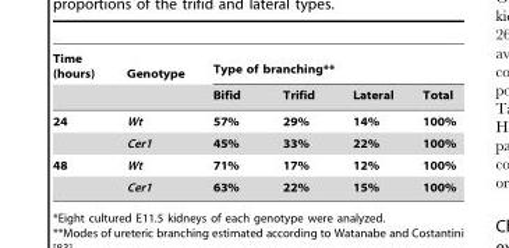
<table><thead><tr><td rowspan="2">Time (hours)</td><td rowspan="2">Genotype</td><td colspan="4">Type of branching**</td></tr><tr><td>Bifid</td><td>Trifid</td><td>Lateral</td><td>Total</td></tr></thead><tbody><tr><td rowspan="2">24</td><td>Wt</td><td>57%</td><td>29%</td><td>14%</td><td>100%</td></tr><tr><td>Cer1</td><td>45%</td><td>33%</td><td>22%</td><td>100%</td></tr><tr><td rowspan="2">48</td><td>Wt</td><td>71%</td><td>17%</td><td>12%</td><td>100%</td></tr><tr><td>Cer1</td><td>63%</td><td>22%</td><td>15%</td><td>100%</td></tr></tbody></table>